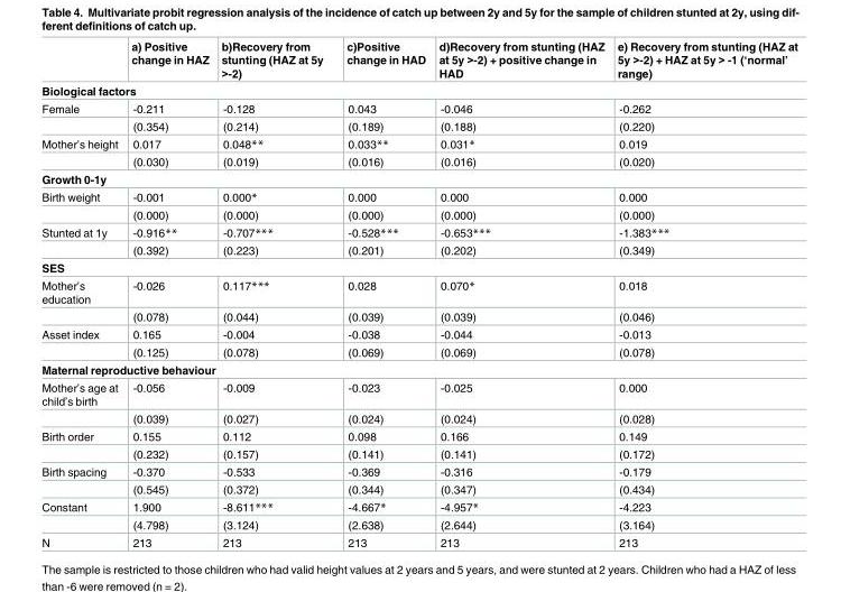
<table><thead><tr><td></td><td>a) Positive change in HAZ</td><td>b)Recovery from stunting (HAZ at 5y &gt;-2)</td><td>c)Positive change in HAD</td><td>d)Recovery from stunting (HAZ at 5y &gt;-2) + positive change in HAD</td><td>e) Recovery from stunting (HAZ at 5y &gt;-2) + HAZ at 5y &gt; -1 (‘normal’ range)</td></tr></thead><tbody><tr><td colspan="6">Biological factors</td></tr><tr><td rowspan="2">Female</td><td>-0.211</td><td>-0.128</td><td>0.043</td><td>-0.046</td><td>-0.262</td></tr><tr><td>(0.354)</td><td>(0.214)</td><td>(0.189)</td><td>(0.188)</td><td>(0.220)</td></tr><tr><td rowspan="2">Mother’s height</td><td>0.017</td><td>0.048**</td><td>0.033**</td><td>0.031*</td><td>0.019</td></tr><tr><td>(0.030)</td><td>(0.019)</td><td>(0.016)</td><td>(0.016)</td><td>(0.020)</td></tr><tr><td colspan="6">Growth 0-1y</td></tr><tr><td rowspan="2">Birth weight</td><td>-0.001</td><td>0.000*</td><td>0.000</td><td>0.000</td><td>0.000</td></tr><tr><td>(0.000)</td><td>(0.000)</td><td>(0.000)</td><td>(0.000)</td><td>(0.000)</td></tr><tr><td rowspan="2">Stunted at 1y</td><td>-0.916**</td><td>-0.707***</td><td>-0.528***</td><td>-0.653***</td><td>-1.383***</td></tr><tr><td>(0.392)</td><td>(0.223)</td><td>(0.201)</td><td>(0.202)</td><td>(0.349)</td></tr><tr><td colspan="6">SES</td></tr><tr><td rowspan="2">Mother’s education</td><td>-0.026</td><td>0.117***</td><td>0.028</td><td>0.070*</td><td>0.018</td></tr><tr><td>(0.078)</td><td>(0.044)</td><td>(0.039)</td><td>(0.039)</td><td>(0.046)</td></tr><tr><td rowspan="2">Asset index</td><td>0.165</td><td>-0.004</td><td>-0.038</td><td>-0.044</td><td>-0.013</td></tr><tr><td>(0.125)</td><td>(0.078)</td><td>(0.069)</td><td>(0.069)</td><td>(0.078)</td></tr><tr><td colspan="6">Maternal reproductive behaviour</td></tr><tr><td rowspan="2">Mother’s age at child’s birth</td><td>-0.056</td><td>-0.009</td><td>-0.023</td><td>-0.025</td><td>0.000</td></tr><tr><td>(0.039)</td><td>(0.027)</td><td>(0.024)</td><td>(0.024)</td><td>(0.028)</td></tr><tr><td rowspan="2">Birth order</td><td>0.155</td><td>0.112</td><td>0.098</td><td>0.166</td><td>0.149</td></tr><tr><td>(0.232)</td><td>(0.157)</td><td>(0.141)</td><td>(0.141)</td><td>(0.172)</td></tr><tr><td rowspan="2">Birth spacing</td><td>-0.370</td><td>-0.533</td><td>-0.369</td><td>-0.316</td><td>-0.179</td></tr><tr><td>(0.545)</td><td>(0.372)</td><td>(0.344)</td><td>(0.347)</td><td>(0.434)</td></tr><tr><td rowspan="2">Constant</td><td>1.900</td><td>-8.611***</td><td>-4.667*</td><td>-4.957*</td><td>-4.223</td></tr><tr><td>(4.798)</td><td>(3.124)</td><td>(2.638)</td><td>(2.644)</td><td>(3.164)</td></tr><tr><td>N</td><td>213</td><td>213</td><td>213</td><td>213</td><td>213</td></tr></tbody></table>